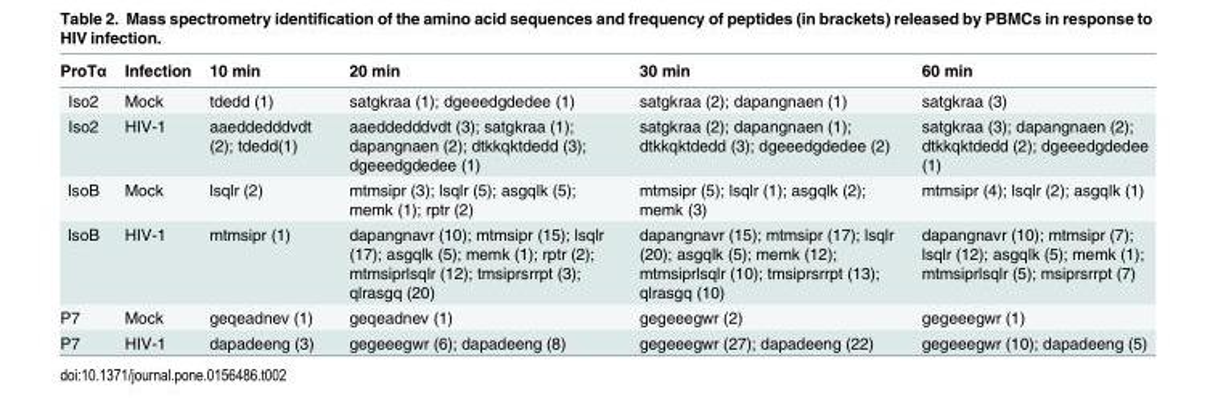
<table><thead><tr><td>ProTα</td><td>Infection</td><td>10 min</td><td>20 min</td><td>30 min</td><td>60 min</td></tr></thead><tbody><tr><td>Iso2</td><td>Mock</td><td>tdedd (1)</td><td>satgkraa (1); dgeeedgdedee (1)</td><td>satgkraa (2); dapangnaen (1)</td><td>satgkraa (3)</td></tr><tr><td>Iso2</td><td>HIV-1</td><td>aaeddedddvdt (2); tdedd(1)</td><td>aaeddedddvdt (3); satgkraa (1); dapangnaen (2); dtkkqktdedd (3); dgeeedgdedee (1)</td><td>satgkraa (2); dapangnaen (1); dtkkqktdedd (3); dgeeedgdedee (2)</td><td>satgkraa (3); dapangnaen (2); dtkkqktdedd (2); dgeeedgdedee (1)</td></tr><tr><td>IsoB</td><td>Mock</td><td>lsqlr (2)</td><td>mtmsipr (3); lsqlr (5); asgqlk (5); memk (1); rptr (2)</td><td>mtmsipr (5); lsqlr (1); asgqlk (2); memk (3)</td><td>mtmsipr (4); lsqlr (2); asgqlk (1)</td></tr><tr><td>IsoB</td><td>HIV-1</td><td>mtmsipr (1)</td><td>dapangnavr (10); mtmsipr (15); lsqlr (17); asgqlk (5); memk (1); rptr (2); mtmsiprlsqlr (12); tmsiprsrrpt (3); qlrasgq (20)</td><td>dapangnavr (15); mtmsipr (17); lsqlr (20); asgqlk (5); memk (12); mtmsiprlsqlr (10); tmsiprsrrpt (13); qlrasgq (10)</td><td>dapangnavr (10); mtmsipr (7); lsqlr (12); asgqlk (5); memk (1); mtmsiprlsqlr (5); msiprsrrpt (7)</td></tr><tr><td>P7</td><td>Mock</td><td>geqeadnev (1)</td><td>geqeadnev (1)</td><td>gegeeegwr (2)</td><td>gegeeegwr (1)</td></tr><tr><td>P7</td><td>HIV-1</td><td>dapadeeng (3)</td><td>gegeeegwr (6); dapadeeng (8)</td><td>gegeeegwr (27); dapadeeng (22)</td><td>gegeeegwr (10); dapadeeng (5)</td></tr></tbody></table>